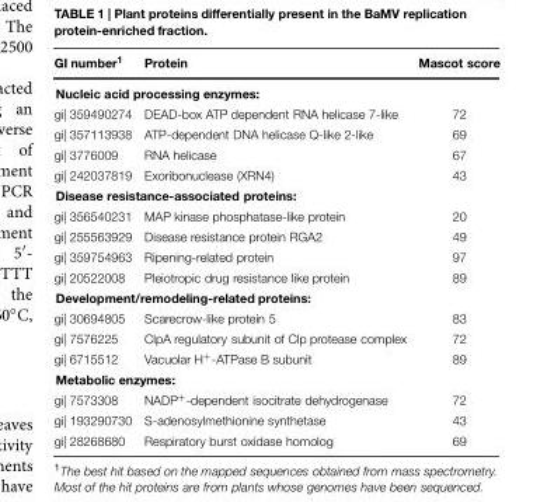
<table><thead><tr><td>GI number<sup>1</sup></td><td>Protein</td><td>Mascot score</td></tr></thead><tbody><tr><td colspan="3">Nucleic acid processing enzymes:</td></tr><tr><td>gi| 359490274</td><td>DEAD-box ATP dependent RNA helicase 7-like</td><td>72</td></tr><tr><td>gi| 357113938</td><td>ATP-dependent DNA helicase Q-like 2-like</td><td>69</td></tr><tr><td>gi| 3776009</td><td>RNA helicase</td><td>67</td></tr><tr><td>gi| 242037819</td><td>Exoribonuclease (XRN4)</td><td>43</td></tr><tr><td colspan="3">Disease resistance-associated proteins:</td></tr><tr><td>gi| 356540231</td><td>MAP kinase phosphatase-like protein</td><td>20</td></tr><tr><td>gi| 255563929</td><td>Disease resistance protein RGA2</td><td>49</td></tr><tr><td>gi| 359754963</td><td>Ripening-related protein</td><td>97</td></tr><tr><td>gi| 20522008</td><td>Pleiotropic drug resistance like protein</td><td>89</td></tr><tr><td colspan="3">Development/remodeling-related proteins:</td></tr><tr><td>gi| 30694805</td><td>Scarecrow-like protein 5</td><td>83</td></tr><tr><td>gi| 7576225</td><td>ClpA regulatory subunit of Clp protease complex</td><td>72</td></tr><tr><td>gi| 6715512</td><td>Vacuolar H<sup>+</sup>-ATPase B subunit</td><td>89</td></tr><tr><td colspan="3">Metabolic enzymes:</td></tr><tr><td>gi| 7573308</td><td>NADP<sup>+</sup>-dependent isocitrate dehydrogenase</td><td>72</td></tr><tr><td>gi| 193290730</td><td>S-adenosylmethionine synthetase</td><td>43</td></tr><tr><td>gi| 28268680</td><td>Respiratory burst oxidase homolog</td><td>69</td></tr></tbody></table>